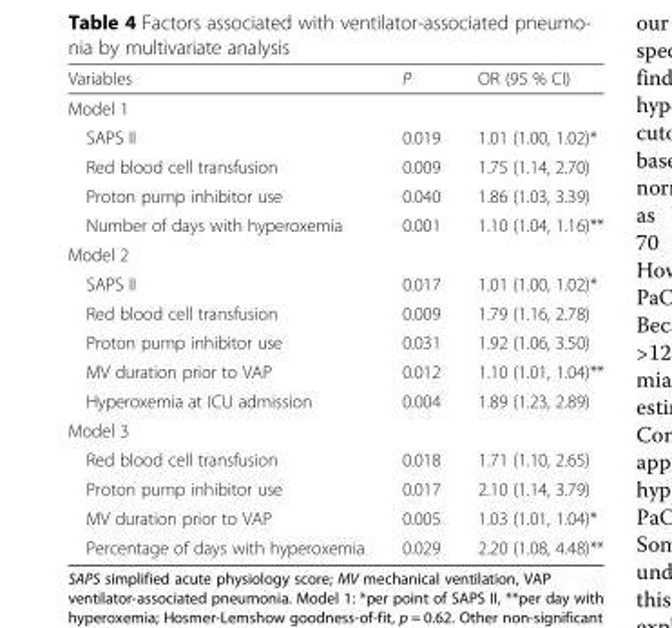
<table><thead><tr><td>Variables</td><td>P</td><td>OR (95 % CI)</td></tr></thead><tbody><tr><td colspan="3">Model 1</td></tr><tr><td>SAPS II</td><td>0.019</td><td>1.01 (1.00, 1.02)*</td></tr><tr><td>Red blood cell transfusion</td><td>0.009</td><td>1.75 (1.14, 2.70)</td></tr><tr><td>Proton pump inhibitor use</td><td>0.040</td><td>1.86 (1.03, 3.39)</td></tr><tr><td>Number of days with hyperoxemia</td><td>0.001</td><td>1.10 (1.04, 1.16)**</td></tr><tr><td colspan="3">Model 2</td></tr><tr><td>SAPS II</td><td>0.017</td><td>1.01 (1.00, 1.02)*</td></tr><tr><td>Red blood cell transfusion</td><td>0.009</td><td>1.79 (1.16, 2.78)</td></tr><tr><td>Proton pump inhibitor use</td><td>0.031</td><td>1.92 (1.06, 3.50)</td></tr><tr><td>MV duration prior to VAP</td><td>0.012</td><td>1.10 (1.01, 1.04)**</td></tr><tr><td>Hyperoxemia at ICU admission</td><td>0.004</td><td>1.89 (1.23, 2.89)</td></tr><tr><td colspan="3">Model 3</td></tr><tr><td>Red blood cell transfusion</td><td>0.018</td><td>1.71 (1.10, 2.65)</td></tr><tr><td>Proton pump inhibitor use</td><td>0.017</td><td>2.10 (1.14, 3.79)</td></tr><tr><td>MV duration prior to VAP</td><td>0.005</td><td>1.03 (1.01, 1.04)*</td></tr><tr><td>Percentage of days with hyperoxemia</td><td>0.029</td><td>2.20 (1.08, 4.48)**</td></tr></tbody></table>